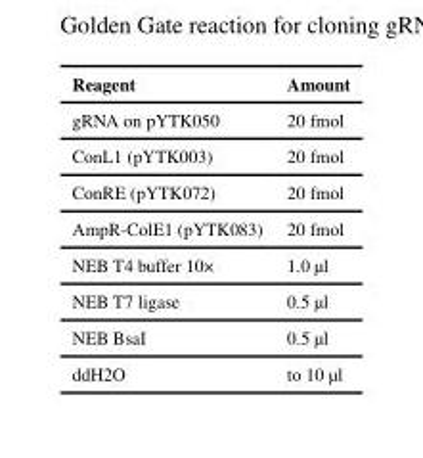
<table><thead><tr><td>Reagent</td><td>Amount</td></tr></thead><tbody><tr><td>gRNA on pYTK050</td><td>20 fmol</td></tr><tr><td>ConL1 (pYTK003)</td><td>20 fmol</td></tr><tr><td>ConRE (pYTK072)</td><td>20 fmol</td></tr><tr><td>AmpR-ColE1 (pYTK083)</td><td>20 fmol</td></tr><tr><td>NEB T4 buffer 10×</td><td>1.0 μl</td></tr><tr><td>NEB T7 ligase</td><td>0.5 μl</td></tr><tr><td>NEB BsaI</td><td>0.5 μl</td></tr><tr><td>ddH2O</td><td>to 10 μl</td></tr></tbody></table>